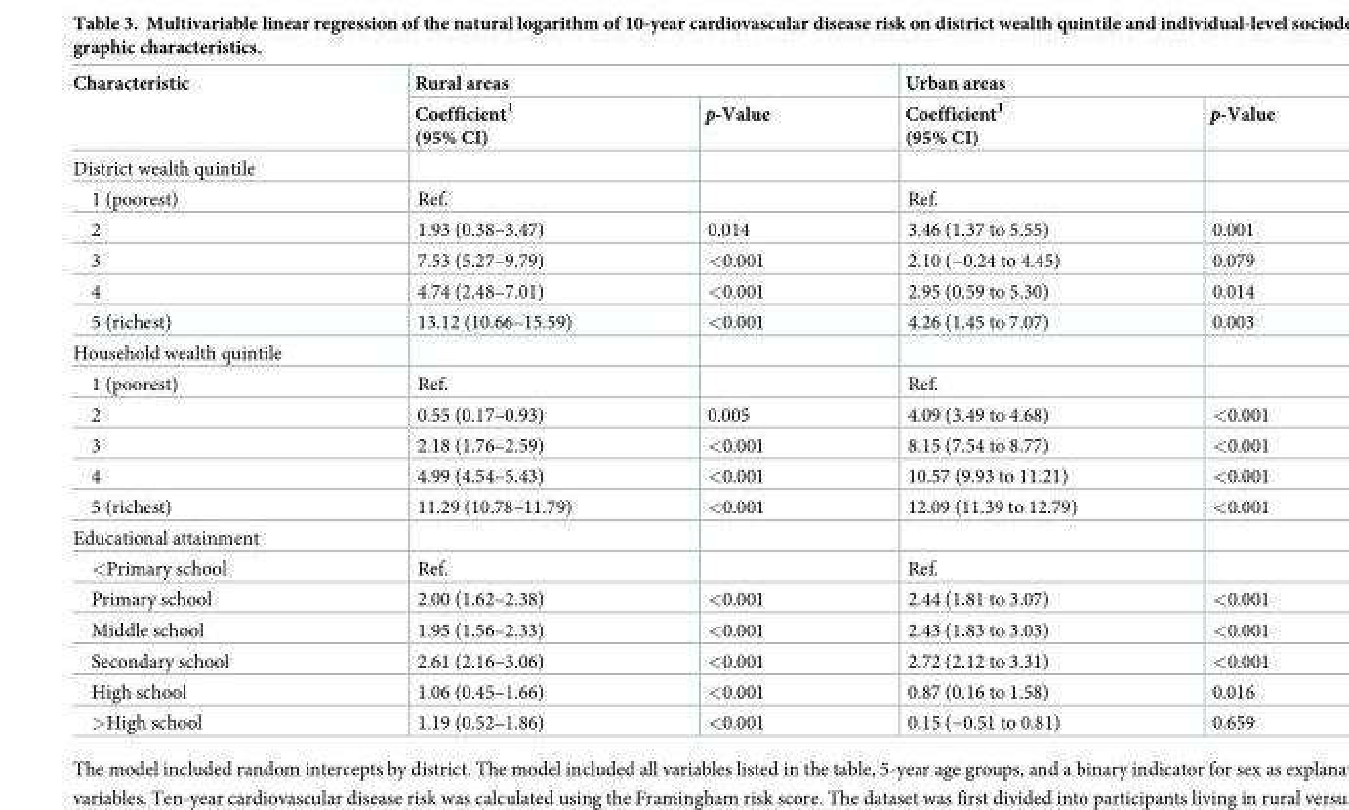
<table><thead><tr><td rowspan="2">Characteristic</td><td colspan="2">Rural areas</td><td colspan="2">Urban areas</td></tr><tr><td>Coefficient<sup>1</sup> (95% CI)</td><td>p-Value</td><td>Coefficient<sup>1</sup> (95% CI)</td><td>p-Value</td></tr></thead><tbody><tr><td colspan="5">District wealth quintile</td></tr><tr><td>1 (poorest)</td><td>Ref.</td><td></td><td>Ref.</td><td></td></tr><tr><td>2</td><td>1.93 (0.38–3.47)</td><td>0.014</td><td>3.46 (1.37 to 5.55)</td><td>0.001</td></tr><tr><td>3</td><td>7.53 (5.27–9.79)</td><td>&lt;0.001</td><td>2.10 (−0.24 to 4.45)</td><td>0.079</td></tr><tr><td>4</td><td>4.74 (2.48–7.01)</td><td>&lt;0.001</td><td>2.95 (0.59 to 5.30)</td><td>0.014</td></tr><tr><td>5 (richest)</td><td>13.12 (10.66–15.59)</td><td>&lt;0.001</td><td>4.26 (1.45 to 7.07)</td><td>0.003</td></tr><tr><td colspan="5">Household wealth quintile</td></tr><tr><td>1 (poorest)</td><td>Ref.</td><td></td><td>Ref.</td><td></td></tr><tr><td>2</td><td>0.55 (0.17–0.93)</td><td>0.005</td><td>4.09 (3.49 to 4.68)</td><td>&lt;0.001</td></tr><tr><td>3</td><td>2.18 (1.76–2.59)</td><td>&lt;0.001</td><td>8.15 (7.54 to 8.77)</td><td>&lt;0.001</td></tr><tr><td>4</td><td>4.99 (4.54–5.43)</td><td>&lt;0.001</td><td>10.57 (9.93 to 11.21)</td><td>&lt;0.001</td></tr><tr><td>5 (richest)</td><td>11.29 (10.78–11.79)</td><td>&lt;0.001</td><td>12.09 (11.39 to 12.79)</td><td>&lt;0.001</td></tr><tr><td colspan="5">Educational attainment</td></tr><tr><td>&lt;Primary school</td><td>Ref.</td><td></td><td>Ref.</td><td></td></tr><tr><td>Primary school</td><td>2.00 (1.62–2.38)</td><td>&lt;0.001</td><td>2.44 (1.81 to 3.07)</td><td>&lt;0.001</td></tr><tr><td>Middle school</td><td>1.95 (1.56–2.33)</td><td>&lt;0.001</td><td>2.43 (1.83 to 3.03)</td><td>&lt;0.001</td></tr><tr><td>Secondary school</td><td>2.61 (2.16–3.06)</td><td>&lt;0.001</td><td>2.72 (2.12 to 3.31)</td><td>&lt;0.001</td></tr><tr><td>High school</td><td>1.06 (0.45–1.66)</td><td>&lt;0.001</td><td>0.87 (0.16 to 1.58)</td><td>0.016</td></tr><tr><td>&gt;High school</td><td>1.19 (0.52–1.86)</td><td>&lt;0.001</td><td>0.15 (−0.51 to 0.81)</td><td>0.659</td></tr></tbody></table>